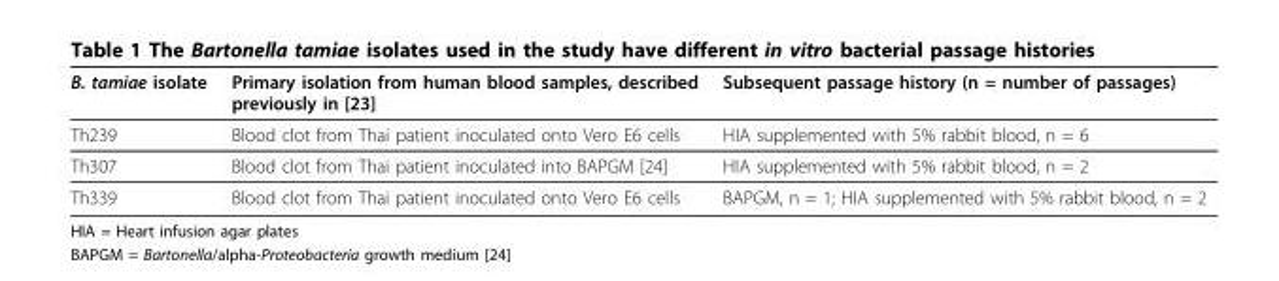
<table><thead><tr><td>B. tamiae isolate</td><td>Primary isolation from human blood samples, described previously in [23]</td><td>Subsequent passage history (n = number of passages)</td></tr></thead><tbody><tr><td>Th239</td><td>Blood clot from Thai patient inoculated onto Vero E6 cells</td><td>HIA supplemented with 5% rabbit blood, n = 6</td></tr><tr><td>Th307</td><td>Blood clot from Thai patient inoculated into BAPGM [24]</td><td>HIA supplemented with 5% rabbit blood, n = 2</td></tr><tr><td>Th339</td><td>Blood clot from Thai patient inoculated onto Vero E6 cells</td><td>BAPGM, n = 1; HIA supplemented with 5% rabbit blood, n = 2</td></tr></tbody></table>